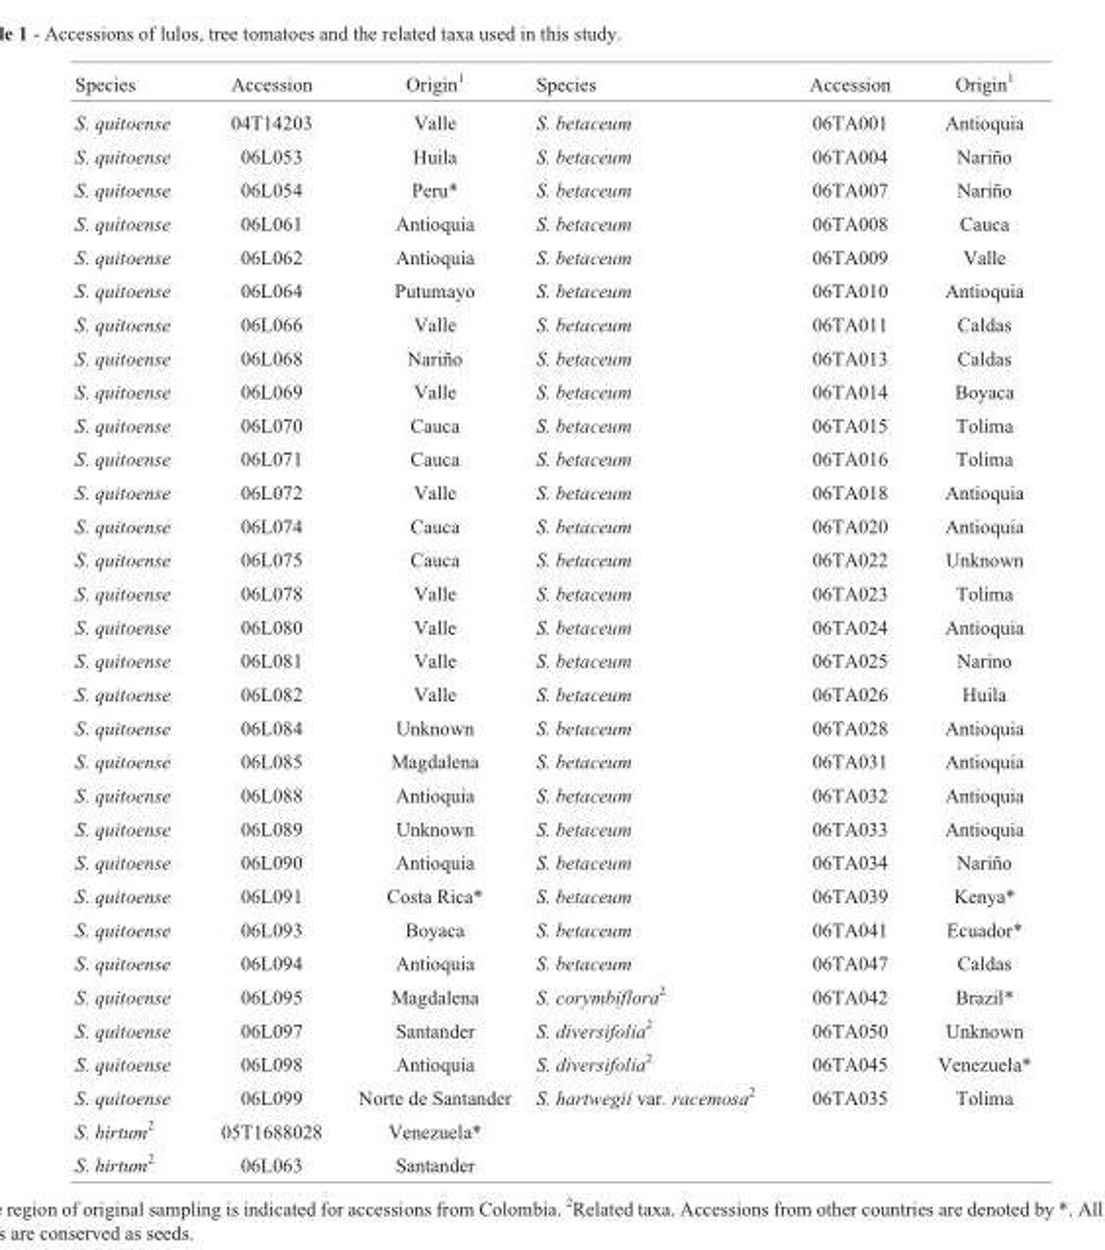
<table><thead><tr><td>Species</td><td>Accession</td><td>Origin<sup>1</sup></td><td>Species</td><td>Accession</td><td>Origin<sup>1</sup></td></tr></thead><tbody><tr><td>S. quitoense</td><td>04T14203</td><td>Valle</td><td>S. betaceum</td><td>06TA001</td><td>Antioquia</td></tr><tr><td>S. quitoense</td><td>06L053</td><td>Huila</td><td>S. betaceum</td><td>06TA004</td><td>Nariño</td></tr><tr><td>S. quitoense</td><td>06L054</td><td>Peru*</td><td>S. betaceum</td><td>06TA007</td><td>Nariño</td></tr><tr><td>S. quitoense</td><td>06L061</td><td>Antioquia</td><td>S. betaceum</td><td>06TA008</td><td>Cauca</td></tr><tr><td>S. quitoense</td><td>06L062</td><td>Antioquia</td><td>S. betaceum</td><td>06TA009</td><td>Valle</td></tr><tr><td>S. quitoense</td><td>06L064</td><td>Putumayo</td><td>S. betaceum</td><td>06TA010</td><td>Antioquia</td></tr><tr><td>S. quitoense</td><td>06L066</td><td>Valle</td><td>S. betaceum</td><td>06TA011</td><td>Caldas</td></tr><tr><td>S. quitoense</td><td>06L068</td><td>Nariño</td><td>S. betaceum</td><td>06TA013</td><td>Caldas</td></tr><tr><td>S. quitoense</td><td>06L069</td><td>Valle</td><td>S. betaceum</td><td>06TA014</td><td>Boyaca</td></tr><tr><td>S. quitoense</td><td>06L070</td><td>Cauca</td><td>S. betaceum</td><td>06TA015</td><td>Tolima</td></tr><tr><td>S. quitoense</td><td>06L071</td><td>Cauca</td><td>S. betaceum</td><td>06TA016</td><td>Tolima</td></tr><tr><td>S. quitoense</td><td>06L072</td><td>Valle</td><td>S. betaceum</td><td>06TA018</td><td>Antioquia</td></tr><tr><td>S. quitoense</td><td>06L074</td><td>Cauca</td><td>S. betaceum</td><td>06TA020</td><td>Antioquia</td></tr><tr><td>S. quitoense</td><td>06L075</td><td>Cauca</td><td>S. betaceum</td><td>06TA022</td><td>Unknown</td></tr><tr><td>S. quitoense</td><td>06L078</td><td>Valle</td><td>S. betaceum</td><td>06TA023</td><td>Tolima</td></tr><tr><td>S. quitoense</td><td>06L080</td><td>Valle</td><td>S. betaceum</td><td>06TA024</td><td>Antioquia</td></tr><tr><td>S. quitoense</td><td>06L081</td><td>Valle</td><td>S. betaceum</td><td>06TA025</td><td>Narino</td></tr><tr><td>S. quitoense</td><td>06L082</td><td>Valle</td><td>S. betaceum</td><td>06TA026</td><td>Huila</td></tr><tr><td>S. quitoense</td><td>06L084</td><td>Unknown</td><td>S. betaceum</td><td>06TA028</td><td>Antioquia</td></tr><tr><td>S. quitoense</td><td>06L085</td><td>Magdalena</td><td>S. betaceum</td><td>06TA031</td><td>Antioquia</td></tr><tr><td>S. quitoense</td><td>06L088</td><td>Antioquia</td><td>S. betaceum</td><td>06TA032</td><td>Antioquia</td></tr><tr><td>S. quitoense</td><td>06L089</td><td>Unknown</td><td>S. betaceum</td><td>06TA033</td><td>Antioquia</td></tr><tr><td>S. quitoense</td><td>06L090</td><td>Antioquia</td><td>S. betaceum</td><td>06TA034</td><td>Nariño</td></tr><tr><td>S. quitoense</td><td>06L091</td><td>Costa Rica*</td><td>S. betaceum</td><td>06TA039</td><td>Kenya*</td></tr><tr><td>S. quitoense</td><td>06L093</td><td>Boyaca</td><td>S. betaceum</td><td>06TA041</td><td>Ecuador*</td></tr><tr><td>S. quitoense</td><td>06L094</td><td>Antioquia</td><td>S. betaceum</td><td>06TA047</td><td>Caldas</td></tr><tr><td>S. quitoense</td><td>06L095</td><td>Magdalena</td><td>S. corymbiflora<sup>2</sup></td><td>06TA042</td><td>Brazil*</td></tr><tr><td>S. quitoense</td><td>06L097</td><td>Santander</td><td>S. diversifolia<sup>2</sup></td><td>06TA050</td><td>Unknown</td></tr><tr><td>S. quitoense</td><td>06L098</td><td>Antioquia</td><td>S. diversifolia<sup>2</sup></td><td>06TA045</td><td>Venezuela*</td></tr><tr><td>S. quitoense</td><td>06L099</td><td>Norte de Santander</td><td>S. hartwegii var. racemosa<sup>2</sup></td><td>06TA035</td><td>Tolima</td></tr><tr><td>S. hirtum<sup>2</sup></td><td>05T1688028</td><td>Venezuela*</td><td></td><td></td><td></td></tr><tr><td>S. hirtum<sup>2</sup></td><td>06L063</td><td>Santander</td><td></td><td></td><td></td></tr></tbody></table>